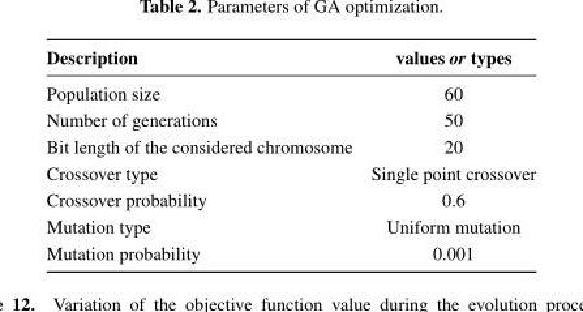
<table><thead><tr><td>Description</td><td>values or types</td></tr></thead><tbody><tr><td>Population size</td><td>60</td></tr><tr><td>Number of generations</td><td>50</td></tr><tr><td>Bit length of the considered chromosome</td><td>20</td></tr><tr><td>Crossover type</td><td>Single point crossover</td></tr><tr><td>Crossover probability</td><td>0.6</td></tr><tr><td>Mutation type</td><td>Uniform mutation</td></tr><tr><td>Mutation probability</td><td>0.001</td></tr></tbody></table>